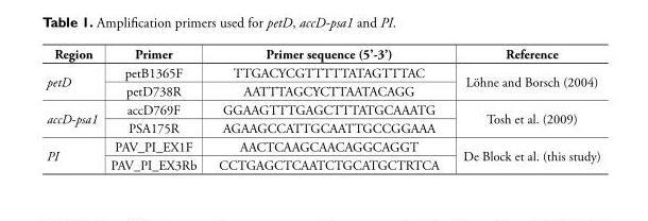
<table><thead><tr><td>Region</td><td>Primer</td><td>Primer sequence (5’-3’)</td><td>Reference</td></tr></thead><tbody><tr><td rowspan="2">petD</td><td>petB1365F</td><td>TTGACYCGTTTTTATAGTTTAC</td><td rowspan="2">Löhne and Borsch (2004)</td></tr><tr><td>petD738R</td><td>AATTTAGCYCTTAATACAGG</td></tr><tr><td rowspan="2">accD-psa1</td><td>accD769F</td><td>GGAAGTTTGAGCTTTATGCAAATG</td><td rowspan="2">Tosh et al. (2009)</td></tr><tr><td>PSA175R</td><td>AGAAGCCATTGCAATTGCCGGAAA</td></tr><tr><td rowspan="2">PI</td><td>PAV_PI_EX1F</td><td>AACTCAAGCAACAGGCAGGT</td><td rowspan="2">De Block et al. (this study)</td></tr><tr><td>PAV_PI_EX3Rb</td><td>CCTGAGCTCAATCTGCATGCTRTCA</td></tr></tbody></table>